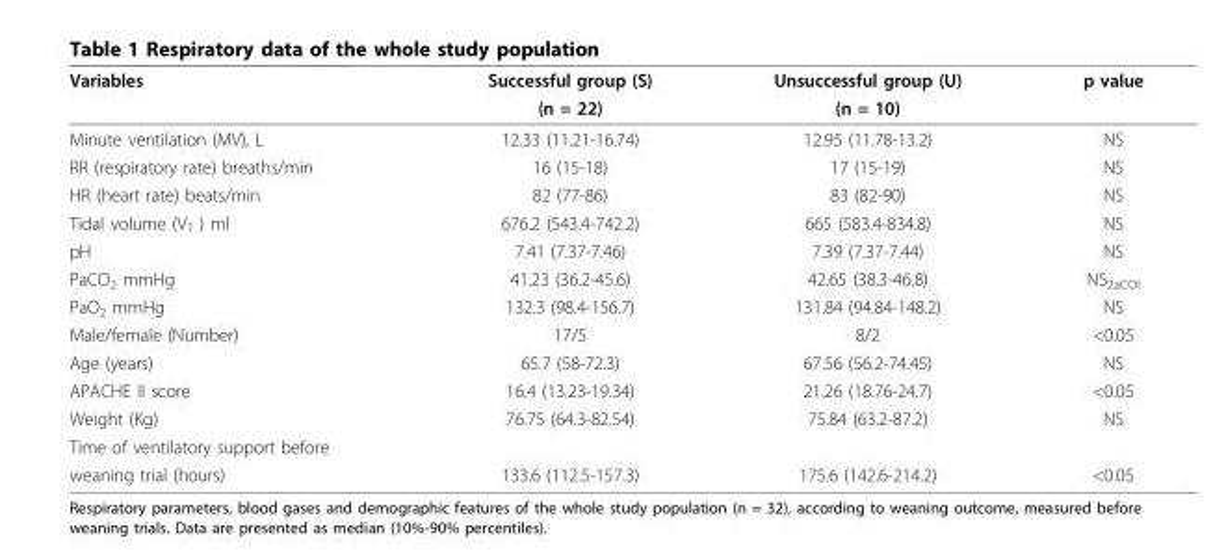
<table><thead><tr><td rowspan="2">Variables</td><td rowspan="2">Successful group (S) (n = 22)</td><td rowspan="2">Unsuccessful group (U) (n = 10)</td><td rowspan="2">p value</td></tr><tr></tr></thead><tbody><tr><td>Minute ventilation (MV), L</td><td>12.33 (11.21-16.74)</td><td>12.95 (11.78-13.2)</td><td>NS</td></tr><tr><td>RR (respiratory rate) breaths/min</td><td>16 (15-18)</td><td>17 (15-19)</td><td>NS</td></tr><tr><td>HR (heart rate) beats/min</td><td>82 (77-86)</td><td>83 (82-90)</td><td>NS</td></tr><tr><td>Tidal volume (V<sub>T</sub> ) ml</td><td>676.2 (543.4-742.2)</td><td>665 (583.4-834.8)</td><td>NS</td></tr><tr><td>pH</td><td>7.41 (7.37-7.46)</td><td>7.39 (7.37-7.44)</td><td>NS</td></tr><tr><td>PaCO<sub>2</sub> mmHg</td><td>41.23 (36.2-45.6)</td><td>42.65 (38.3-46.8)</td><td>NS<sub>2aCOl</sub></td></tr><tr><td>PaO<sub>2</sub> mmHg</td><td>132.3 (98.4-156.7)</td><td>131.84 (94.84-148.2)</td><td>NS</td></tr><tr><td>Male/female (Number)</td><td>17/5</td><td>8/2</td><td>&lt;0.05</td></tr><tr><td>Age (years)</td><td>65.7 (58-72.3)</td><td>67.56 (56.2-74.45)</td><td>NS</td></tr><tr><td>APACHE II score</td><td>16.4 (13.23-19.34)</td><td>21.26 (18.76-24.7)</td><td>&lt;0.05</td></tr><tr><td>Weight (Kg)</td><td>76.75 (64.3-82.54)</td><td>75.84 (63.2-87.2)</td><td>NS</td></tr><tr><td colspan="4">Time of ventilatory support before</td></tr><tr><td>weaning trial (hours)</td><td>133.6 (112.5-157.3)</td><td>175.6 (142.6-214.2)</td><td>&lt;0.05</td></tr></tbody></table>